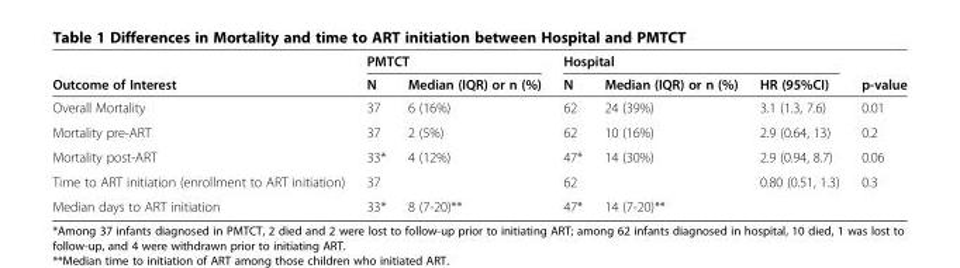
<table><thead><tr><td rowspan="2">Outcome of Interest</td><td colspan="2">PMTCT</td><td colspan="3">Hospital</td><td rowspan="2">p-value</td></tr><tr><td>N</td><td>Median (IQR) or n (%)</td><td>N</td><td>Median (IQR) or n (%)</td><td>HR (95%CI)</td></tr></thead><tbody><tr><td>Overall Mortality</td><td>37</td><td>6 (16%)</td><td>62</td><td>24 (39%)</td><td>3.1 (1.3, 7.6)</td><td>0.01</td></tr><tr><td>Mortality pre-ART</td><td>37</td><td>2 (5%)</td><td>62</td><td>10 (16%)</td><td>2.9 (0.64, 13)</td><td>0.2</td></tr><tr><td>Mortality post-ART</td><td>33*</td><td>4 (12%)</td><td>47*</td><td>14 (30%)</td><td>2.9 (0.94, 8.7)</td><td>0.06</td></tr><tr><td>Time to ART initiation (enrollment to ART initiation)</td><td>37</td><td></td><td>62</td><td></td><td>0.80 (0.51, 1.3)</td><td>0.3</td></tr><tr><td>Median days to ART initiation</td><td>33*</td><td>8 (7-20)**</td><td>47*</td><td>14 (7-20)**</td><td></td><td></td></tr></tbody></table>